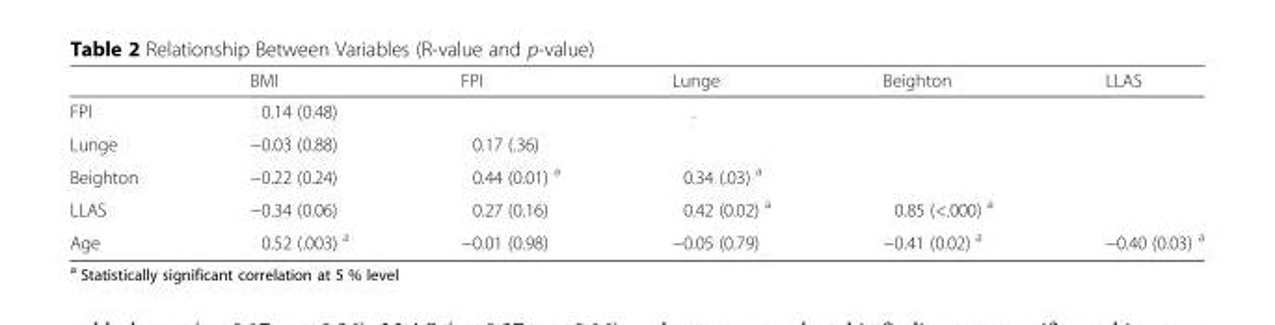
<table><thead><tr><td></td><td>BMI</td><td>FPI</td><td>Lunge</td><td>Beighton</td><td>LLAS</td></tr></thead><tbody><tr><td>FPI</td><td>0.14 (0.48)</td><td></td><td>.</td><td></td><td></td></tr><tr><td>Lunge</td><td>−0.03 (0.88)</td><td>0.17 (.36)</td><td></td><td></td><td></td></tr><tr><td>Beighton</td><td>−0.22 (0.24)</td><td>0.44 (0.01) <sup>a</sup></td><td>0.34 (.03) <sup>a</sup></td><td></td><td></td></tr><tr><td>LLAS</td><td>−0.34 (0.06)</td><td>0.27 (0.16)</td><td>0.42 (0.02) <sup>a</sup></td><td>0.85 (&lt;.000) <sup>a</sup></td><td></td></tr><tr><td>Age</td><td>0.52 (.003) <sup>a</sup></td><td>−0.01 (0.98)</td><td>−0.05 (0.79)</td><td>−0.41 (0.02) <sup>a</sup></td><td>−0.40 (0.03) <sup>a</sup></td></tr></tbody></table>